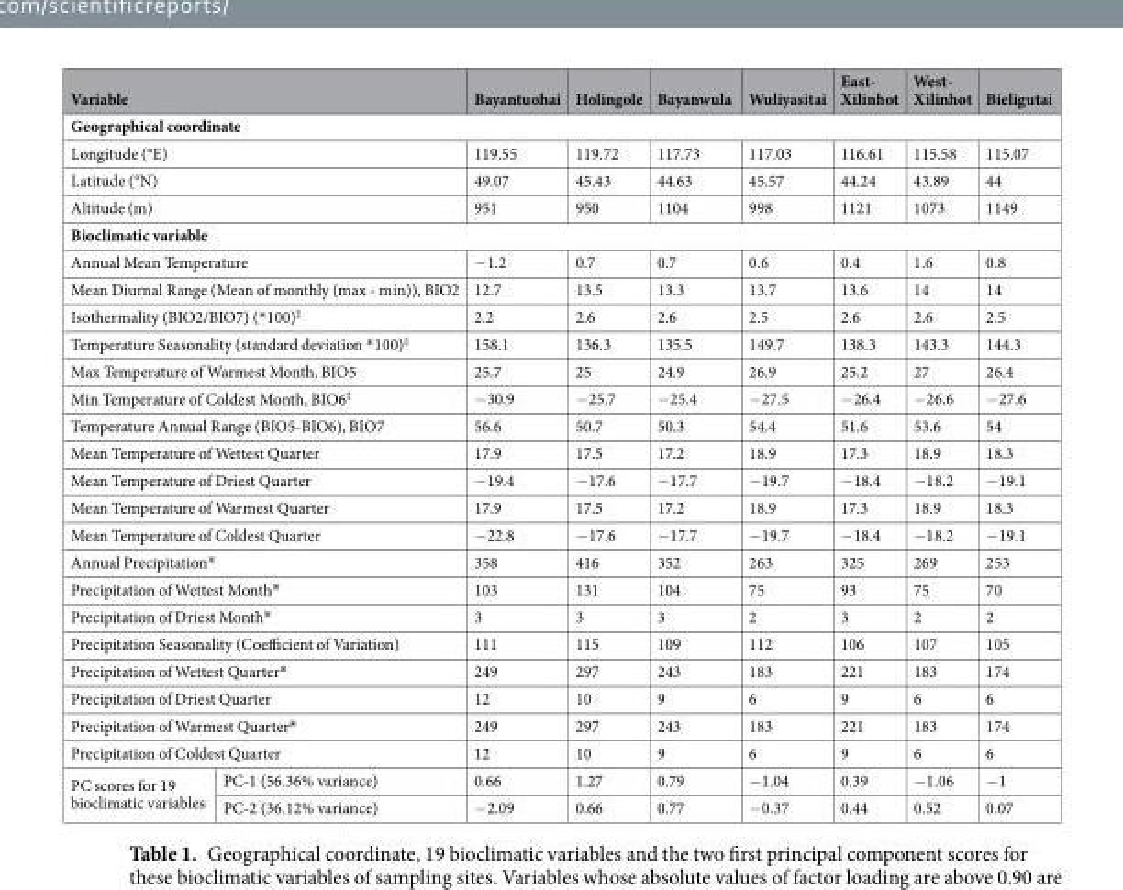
<table><thead><tr><td colspan="2">Variable</td><td>Bayantuohai</td><td>Holingole</td><td>Bayanwula</td><td>Wuliyasitai</td><td>East- Xilinhot</td><td>West- Xilinhot</td><td>Bieligutai</td></tr></thead><tbody><tr><td colspan="9">Geographical coordinate</td></tr><tr><td colspan="2">Longitude (°E)</td><td>119.55</td><td>119.72</td><td>117.73</td><td>117.03</td><td>116.61</td><td>115.58</td><td>115.07</td></tr><tr><td colspan="2">Latitude (°N)</td><td>49.07</td><td>45.43</td><td>44.63</td><td>45.57</td><td>44.24</td><td>43.89</td><td>44</td></tr><tr><td colspan="2">Altitude (m)</td><td>951</td><td>950</td><td>1104</td><td>998</td><td>1121</td><td>1073</td><td>1149</td></tr><tr><td colspan="9">Bioclimatic variable</td></tr><tr><td colspan="2">Annual Mean Temperature</td><td>−1.2</td><td>0.7</td><td>0.7</td><td>0.6</td><td>0.4</td><td>1.6</td><td>0.8</td></tr><tr><td colspan="2">Mean Diurnal Range (Mean of monthly (max - min)), BIO2</td><td>12.7</td><td>13.5</td><td>13.3</td><td>13.7</td><td>13.6</td><td>14</td><td>14</td></tr><tr><td colspan="2">Isothermality (BIO2/BIO7) (*100)<sup>⁑</sup></td><td>2.2</td><td>2.6</td><td>2.6</td><td>2.5</td><td>2.6</td><td>2.6</td><td>2.5</td></tr><tr><td colspan="2">Temperature Seasonality (standard deviation *100)<sup>⁑</sup></td><td>158.1</td><td>136.3</td><td>135.5</td><td>149.7</td><td>138.3</td><td>143.3</td><td>144.3</td></tr><tr><td colspan="2">Max Temperature of Warmest Month, BIO5</td><td>25.7</td><td>25</td><td>24.9</td><td>26.9</td><td>25.2</td><td>27</td><td>26.4</td></tr><tr><td colspan="2">Min Temperature of Coldest Month, BIO6<sup>⁑</sup></td><td>−30.9</td><td>−25.7</td><td>−25.4</td><td>−27.5</td><td>−26.4</td><td>−26.6</td><td>−27.6</td></tr><tr><td colspan="2">Temperature Annual Range (BIO5-BIO6), BIO7</td><td>56.6</td><td>50.7</td><td>50.3</td><td>54.4</td><td>51.6</td><td>53.6</td><td>54</td></tr><tr><td colspan="2">Mean Temperature of Wettest Quarter</td><td>17.9</td><td>17.5</td><td>17.2</td><td>18.9</td><td>17.3</td><td>18.9</td><td>18.3</td></tr><tr><td colspan="2">Mean Temperature of Driest Quarter</td><td>−19.4</td><td>−17.6</td><td>−17.7</td><td>−19.7</td><td>−18.4</td><td>−18.2</td><td>−19.1</td></tr><tr><td colspan="2">Mean Temperature of Warmest Quarter</td><td>17.9</td><td>17.5</td><td>17.2</td><td>18.9</td><td>17.3</td><td>18.9</td><td>18.3</td></tr><tr><td colspan="2">Mean Temperature of Coldest Quarter</td><td>−22.8</td><td>−17.6</td><td>−17.7</td><td>−19.7</td><td>−18.4</td><td>−18.2</td><td>−19.1</td></tr><tr><td colspan="2">Annual Precipitation<sup>※</sup></td><td>358</td><td>416</td><td>352</td><td>263</td><td>325</td><td>269</td><td>253</td></tr><tr><td colspan="2">Precipitation of Wettest Month<sup>※</sup></td><td>103</td><td>131</td><td>104</td><td>75</td><td>93</td><td>75</td><td>70</td></tr><tr><td colspan="2">Precipitation of Driest Month<sup>※</sup></td><td>3</td><td>3</td><td>3</td><td>2</td><td>3</td><td>2</td><td>2</td></tr><tr><td colspan="2">Precipitation Seasonality (Coefficient of Variation)</td><td>111</td><td>115</td><td>109</td><td>112</td><td>106</td><td>107</td><td>105</td></tr><tr><td colspan="2">Precipitation of Wettest Quarter<sup>※</sup></td><td>249</td><td>297</td><td>243</td><td>183</td><td>221</td><td>183</td><td>174</td></tr><tr><td colspan="2">Precipitation of Driest Quarter</td><td>12</td><td>10</td><td>9</td><td>6</td><td>9</td><td>6</td><td>6</td></tr><tr><td colspan="2">Precipitation of Warmest Quarter<sup>※</sup></td><td>249</td><td>297</td><td>243</td><td>183</td><td>221</td><td>183</td><td>174</td></tr><tr><td colspan="2">Precipitation of Coldest Quarter</td><td>12</td><td>10</td><td>9</td><td>6</td><td>9</td><td>6</td><td>6</td></tr><tr><td rowspan="2">PC scores for 19 bioclimatic variables</td><td>PC-1 (56.36% variance)</td><td>0.66</td><td>1.27</td><td>0.79</td><td>−1.04</td><td>0.39</td><td>−1.06</td><td>−1</td></tr><tr><td>PC-2 (36.12% variance)</td><td>−2.09</td><td>0.66</td><td>0.77</td><td>−0.37</td><td>0.44</td><td>0.52</td><td>0.07</td></tr></tbody></table>